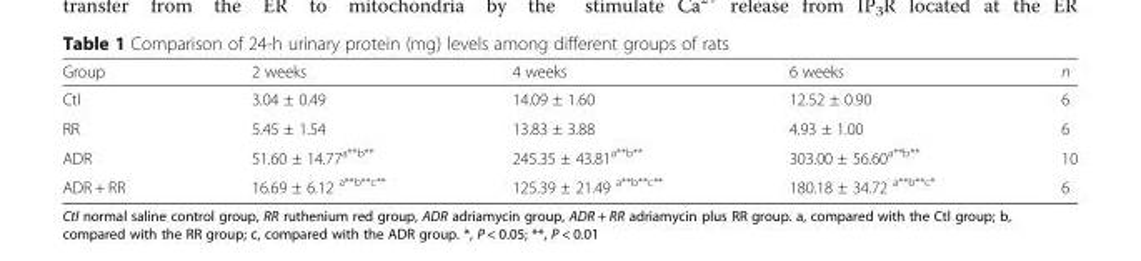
<table><thead><tr><td>Group</td><td>2 weeks</td><td>4 weeks</td><td>6 weeks</td><td>n</td></tr></thead><tbody><tr><td>Ctl</td><td>3.04 ± 0.49</td><td>14.09 ± 1.60</td><td>12.52 ± 0.90</td><td>6</td></tr><tr><td>RR</td><td>5.45 ± 1.54</td><td>13.83 ± 3.88</td><td>4.93 ± 1.00</td><td>6</td></tr><tr><td>ADR</td><td>51.60 ± 14.77<sup>a**b**</sup></td><td>245.35 ± 43.81<sup>a**b**</sup></td><td>303.00 ± 56.60<sup>a**b**</sup></td><td>10</td></tr><tr><td>ADR + RR</td><td>16.69 ± 6.12 <sup>a**b**c**</sup></td><td>125.39 ± 21.49 <sup>a**b**c**</sup></td><td>180.18 ± 34.72 <sup>a**b**c*</sup></td><td>6</td></tr></tbody></table>